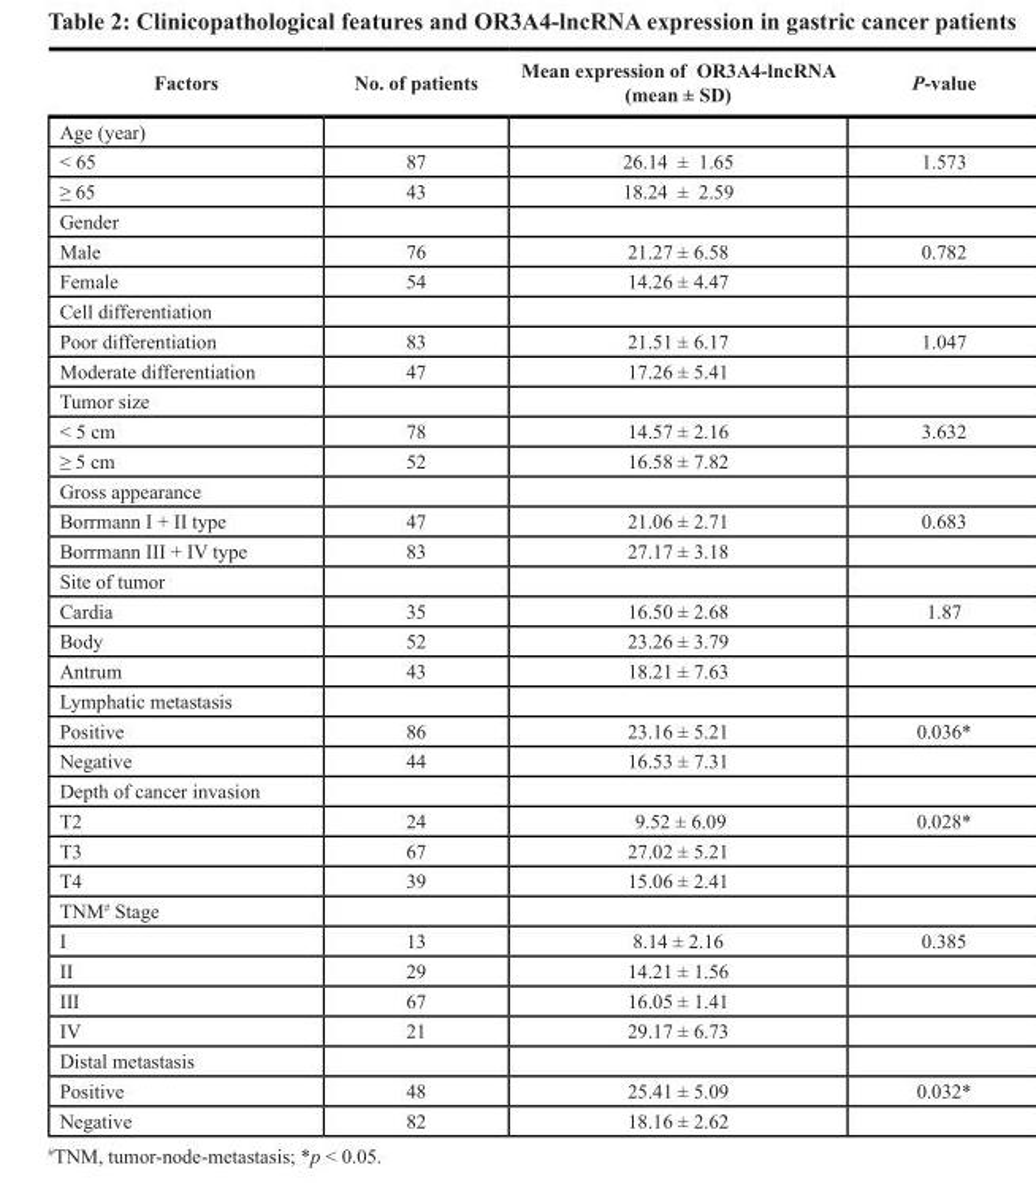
<table><thead><tr><td>Factors</td><td>No. of patients</td><td>Mean expression of OR3A4-lncRNA (mean ± SD)</td><td>P-value</td></tr></thead><tbody><tr><td colspan="4">Age (year)</td></tr><tr><td>&lt; 65</td><td>87</td><td>26.14 ± 1.65</td><td>1.573</td></tr><tr><td>≥ 65</td><td>43</td><td>18.24 ± 2.59</td><td></td></tr><tr><td colspan="4">Gender</td></tr><tr><td>Male</td><td>76</td><td>21.27 ± 6.58</td><td>0.782</td></tr><tr><td>Female</td><td>54</td><td>14.26 ± 4.47</td><td></td></tr><tr><td colspan="4">Cell differentiation</td></tr><tr><td>Poor differentiation</td><td>83</td><td>21.51 ± 6.17</td><td>1.047</td></tr><tr><td>Moderate differentiation</td><td>47</td><td>17.26 ± 5.41</td><td></td></tr><tr><td colspan="4">Tumor size</td></tr><tr><td>&lt; 5 cm</td><td>78</td><td>14.57 ± 2.16</td><td>3.632</td></tr><tr><td>≥ 5 cm</td><td>52</td><td>16.58 ± 7.82</td><td></td></tr><tr><td colspan="4">Gross appearance</td></tr><tr><td>Borrmann I + II type</td><td>47</td><td>21.06 ± 2.71</td><td>0.683</td></tr><tr><td>Borrmann III + IV type</td><td>83</td><td>27.17 ± 3.18</td><td></td></tr><tr><td colspan="4">Site of tumor</td></tr><tr><td>Cardia</td><td>35</td><td>16.50 ± 2.68</td><td>1.87</td></tr><tr><td>Body</td><td>52</td><td>23.26 ± 3.79</td><td></td></tr><tr><td>Antrum</td><td>43</td><td>18.21 ± 7.63</td><td></td></tr><tr><td colspan="4">Lymphatic metastasis</td></tr><tr><td>Positive</td><td>86</td><td>23.16 ± 5.21</td><td>0.036*</td></tr><tr><td>Negative</td><td>44</td><td>16.53 ± 7.31</td><td></td></tr><tr><td colspan="4">Depth of cancer invasion</td></tr><tr><td>T2</td><td>24</td><td>9.52 ± 6.09</td><td>0.028*</td></tr><tr><td>T3</td><td>67</td><td>27.02 ± 5.21</td><td></td></tr><tr><td>T4</td><td>39</td><td>15.06 ± 2.41</td><td></td></tr><tr><td colspan="4">TNM<sup>#</sup> Stage</td></tr><tr><td>I</td><td>13</td><td>8.14 ± 2.16</td><td>0.385</td></tr><tr><td>II</td><td>29</td><td>14.21 ± 1.56</td><td></td></tr><tr><td>III</td><td>67</td><td>16.05 ± 1.41</td><td></td></tr><tr><td>IV</td><td>21</td><td>29.17 ± 6.73</td><td></td></tr><tr><td colspan="4">Distal metastasis</td></tr><tr><td>Positive</td><td>48</td><td>25.41 ± 5.09</td><td>0.032*</td></tr><tr><td>Negative</td><td>82</td><td>18.16 ± 2.62</td><td></td></tr></tbody></table>